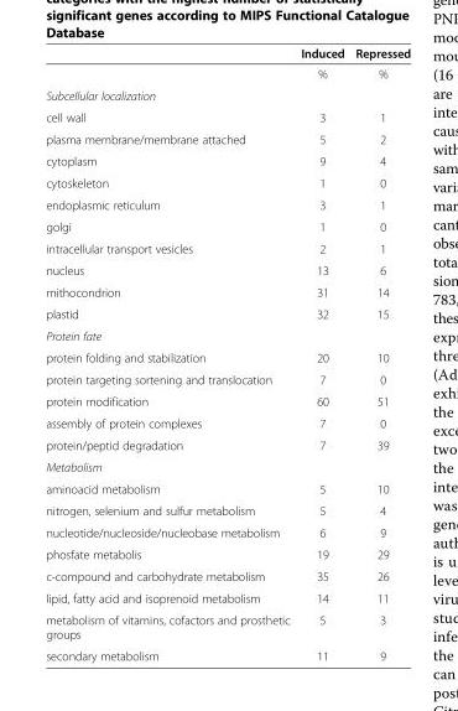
<table><thead><tr><td></td><td>Induced</td><td>Repressed</td></tr></thead><tbody><tr><td></td><td>%</td><td>%</td></tr><tr><td colspan="3">Subcellular localization</td></tr><tr><td>cell wall</td><td>3</td><td>1</td></tr><tr><td>plasma membrane/membrane attached</td><td>5</td><td>2</td></tr><tr><td>cytoplasm</td><td>9</td><td>4</td></tr><tr><td>cytoskeleton</td><td>1</td><td>0</td></tr><tr><td>endoplasmic reticulum</td><td>3</td><td>1</td></tr><tr><td>golgi</td><td>1</td><td>0</td></tr><tr><td>intracellular transport vesicles</td><td>2</td><td>1</td></tr><tr><td>nucleus</td><td>13</td><td>6</td></tr><tr><td>mithocondrion</td><td>31</td><td>14</td></tr><tr><td>plastid</td><td>32</td><td>15</td></tr><tr><td colspan="3">Protein fate</td></tr><tr><td>protein folding and stabilization</td><td>20</td><td>10</td></tr><tr><td>protein targeting sortening and translocation</td><td>7</td><td>0</td></tr><tr><td>protein modification</td><td>60</td><td>51</td></tr><tr><td>assembly of protein complexes</td><td>7</td><td>0</td></tr><tr><td>protein/peptid degradation</td><td>7</td><td>39</td></tr><tr><td colspan="3">Metabolism</td></tr><tr><td>aminoacid metabolism</td><td>5</td><td>10</td></tr><tr><td>nitrogen, selenium and sulfur metabolism</td><td>5</td><td>4</td></tr><tr><td>nucleotide/nucleoside/nucleobase metabolism</td><td>6</td><td>9</td></tr><tr><td>phosfate metabolis</td><td>19</td><td>29</td></tr><tr><td>c-compound and carbohydrate metabolism</td><td>35</td><td>26</td></tr><tr><td>lipid, fatty acid and isoprenoid metabolism</td><td>14</td><td>11</td></tr><tr><td>metabolism of vitamins, cofactors and prosthetic groups</td><td>5</td><td>3</td></tr><tr><td>secondary metabolism</td><td>11</td><td>9</td></tr></tbody></table>